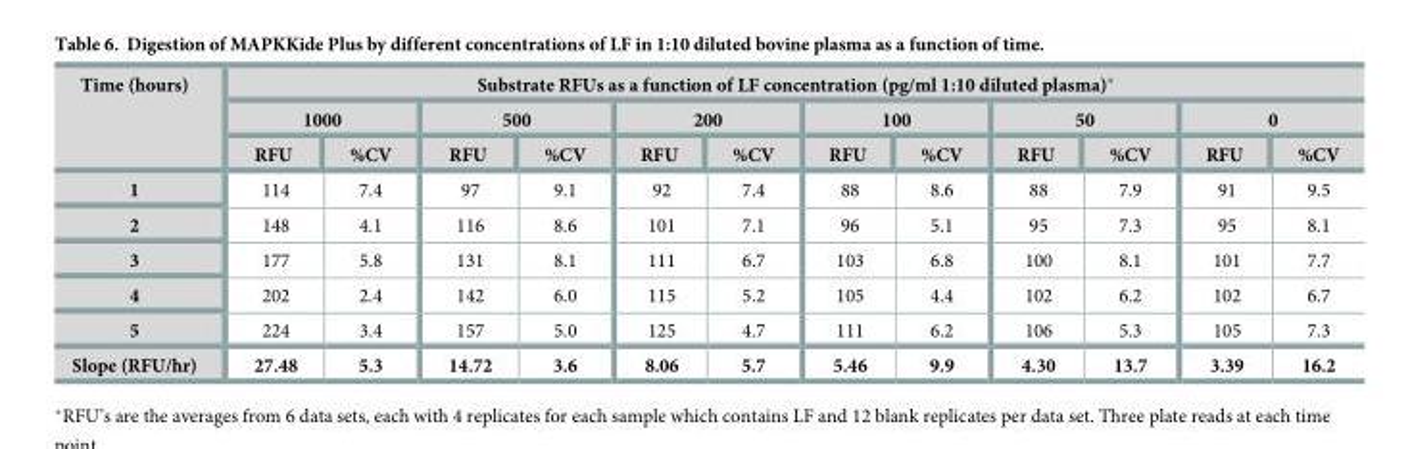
<table><thead><tr><td rowspan="3">Time (hours)</td><td colspan="12">Substrate RFUs as a function of LF concentration (pg/ml 1:10 diluted plasma)*</td></tr><tr><td colspan="2">1000</td><td colspan="2">500</td><td colspan="2">200</td><td colspan="2">100</td><td colspan="2">50</td><td colspan="2">0</td></tr><tr><td>RFU</td><td>%CV</td><td>RFU</td><td>%CV</td><td>RFU</td><td>%CV</td><td>RFU</td><td>%CV</td><td>RFU</td><td>%CV</td><td>RFU</td><td>%CV</td></tr></thead><tbody><tr><td>1</td><td>114</td><td>7.4</td><td>97</td><td>9.1</td><td>92</td><td>7.4</td><td>88</td><td>8.6</td><td>88</td><td>7.9</td><td>91</td><td>9.5</td></tr><tr><td>2</td><td>148</td><td>4.1</td><td>116</td><td>8.6</td><td>101</td><td>7.1</td><td>96</td><td>5.1</td><td>95</td><td>7.3</td><td>95</td><td>8.1</td></tr><tr><td>3</td><td>177</td><td>5.8</td><td>131</td><td>8.1</td><td>111</td><td>6.7</td><td>103</td><td>6.8</td><td>100</td><td>8.1</td><td>101</td><td>7.7</td></tr><tr><td>4</td><td>202</td><td>2.4</td><td>142</td><td>6.0</td><td>115</td><td>5.2</td><td>105</td><td>4.4</td><td>102</td><td>6.2</td><td>102</td><td>6.7</td></tr><tr><td>5</td><td>224</td><td>3.4</td><td>157</td><td>5.0</td><td>125</td><td>4.7</td><td>111</td><td>6.2</td><td>106</td><td>5.3</td><td>105</td><td>7.3</td></tr><tr><td>Slope (RFU/hr)</td><td>27.48</td><td>5.3</td><td>14.72</td><td>3.6</td><td>8.06</td><td>5.7</td><td>5.46</td><td>9.9</td><td>4.30</td><td>13.7</td><td>3.39</td><td>16.2</td></tr></tbody></table>